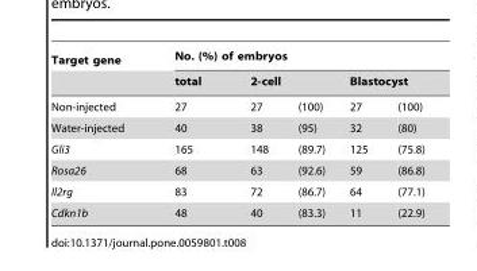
<table><thead><tr><td rowspan="3">Target gene Non-injected</td><td colspan="5">No. (%) of embryos</td></tr><tr><td rowspan="2">total 27</td><td colspan="2">2-cell</td><td colspan="2">Blastocyst</td></tr><tr><td>27</td><td>(100)</td><td>27</td><td>(100)</td></tr></thead><tbody><tr><td>Water-injected</td><td>40</td><td>38</td><td>(95)</td><td>32</td><td>(80)</td></tr><tr><td>Gli3</td><td>165</td><td>148</td><td>(89.7)</td><td>125</td><td>(75.8)</td></tr><tr><td>Rosa26</td><td>68</td><td>63</td><td>(92.6)</td><td>59</td><td>(86.8)</td></tr><tr><td>Il2rg</td><td>83</td><td>72</td><td>(86.7)</td><td>64</td><td>(77.1)</td></tr><tr><td>Cdkn1b</td><td>48</td><td>40</td><td>(83.3)</td><td>11</td><td>(22.9)</td></tr></tbody></table>